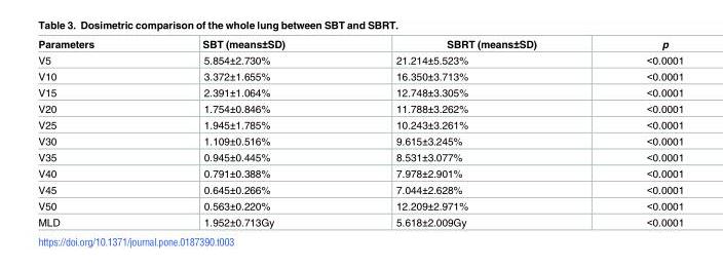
<table><thead><tr><td>Parameters</td><td>SBT (means±SD)</td><td>SBRT (means±SD)</td><td>p</td></tr></thead><tbody><tr><td>V5</td><td>5.854±2.730%</td><td>21.214±5.523%</td><td>&lt;0.0001</td></tr><tr><td>V10</td><td>3.372±1.655%</td><td>16.350±3.713%</td><td>&lt;0.0001</td></tr><tr><td>V15</td><td>2.391±1.064%</td><td>12.748±3.305%</td><td>&lt;0.0001</td></tr><tr><td>V20</td><td>1.754±0.846%</td><td>11.788±3.262%</td><td>&lt;0.0001</td></tr><tr><td>V25</td><td>1.945±1.785%</td><td>10.243±3.261%</td><td>&lt;0.0001</td></tr><tr><td>V30</td><td>1.109±0.516%</td><td>9.615±3.245%</td><td>&lt;0.0001</td></tr><tr><td>V35</td><td>0.945±0.445%</td><td>8.531±3.077%</td><td>&lt;0.0001</td></tr><tr><td>V40</td><td>0.791±0.388%</td><td>7.978±2.901%</td><td>&lt;0.0001</td></tr><tr><td>V45</td><td>0.645±0.266%</td><td>7.044±2.628%</td><td>&lt;0.0001</td></tr><tr><td>V50</td><td>0.563±0.220%</td><td>12.209±2.971%</td><td>&lt;0.0001</td></tr><tr><td>MLD</td><td>1.952±0.713Gy</td><td>5.618±2.009Gy</td><td>&lt;0.0001</td></tr></tbody></table>